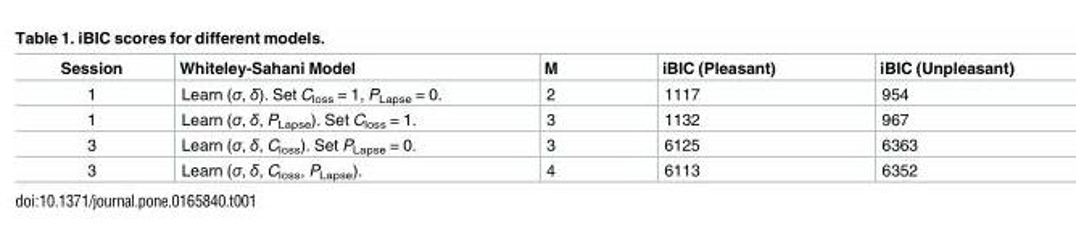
<table><thead><tr><td>Session</td><td>Whiteley-Sahani Model</td><td>M</td><td>iBIC (Pleasant)</td><td>iBIC (Unpleasant)</td></tr></thead><tbody><tr><td>1</td><td>Learn (σ, δ). Set C<sub>loss</sub> = 1, P<sub>Lapse</sub> = 0.</td><td>2</td><td>1117</td><td>954</td></tr><tr><td>1</td><td>Learn (σ, δ, P<sub>Lapse</sub>). Set C<sub>loss</sub> = 1.</td><td>3</td><td>1132</td><td>967</td></tr><tr><td>3</td><td>Learn (σ, δ, C<sub>loss</sub>). Set P<sub>Lapse</sub> = 0.</td><td>3</td><td>6125</td><td>6363</td></tr><tr><td>3</td><td>Learn (σ, δ, C<sub>loss</sub>, P<sub>Lapse</sub>).</td><td>4</td><td>6113</td><td>6352</td></tr></tbody></table>